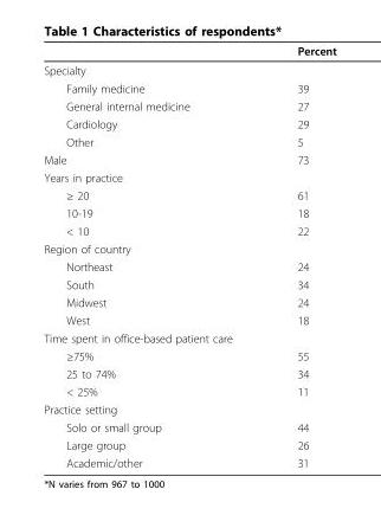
<table><thead><tr><td></td><td>Percent</td></tr></thead><tbody><tr><td colspan="2">Specialty</td></tr><tr><td>Family medicine</td><td>39</td></tr><tr><td>General internal medicine</td><td>27</td></tr><tr><td>Cardiology</td><td>29</td></tr><tr><td>Other</td><td>5</td></tr><tr><td>Male</td><td>73</td></tr><tr><td colspan="2">Years in practice</td></tr><tr><td>≥ 20</td><td>61</td></tr><tr><td>10-19</td><td>18</td></tr><tr><td>&lt; 10</td><td>22</td></tr><tr><td colspan="2">Region of country</td></tr><tr><td>Northeast</td><td>24</td></tr><tr><td>South</td><td>34</td></tr><tr><td>Midwest</td><td>24</td></tr><tr><td>West</td><td>18</td></tr><tr><td colspan="2">Time spent in office-based patient care</td></tr><tr><td>≥75%</td><td>55</td></tr><tr><td>25 to 74%</td><td>34</td></tr><tr><td>&lt; 25%</td><td>11</td></tr><tr><td colspan="2">Practice setting</td></tr><tr><td>Solo or small group</td><td>44</td></tr><tr><td>Large group</td><td>26</td></tr><tr><td>Academic/other</td><td>31</td></tr></tbody></table>